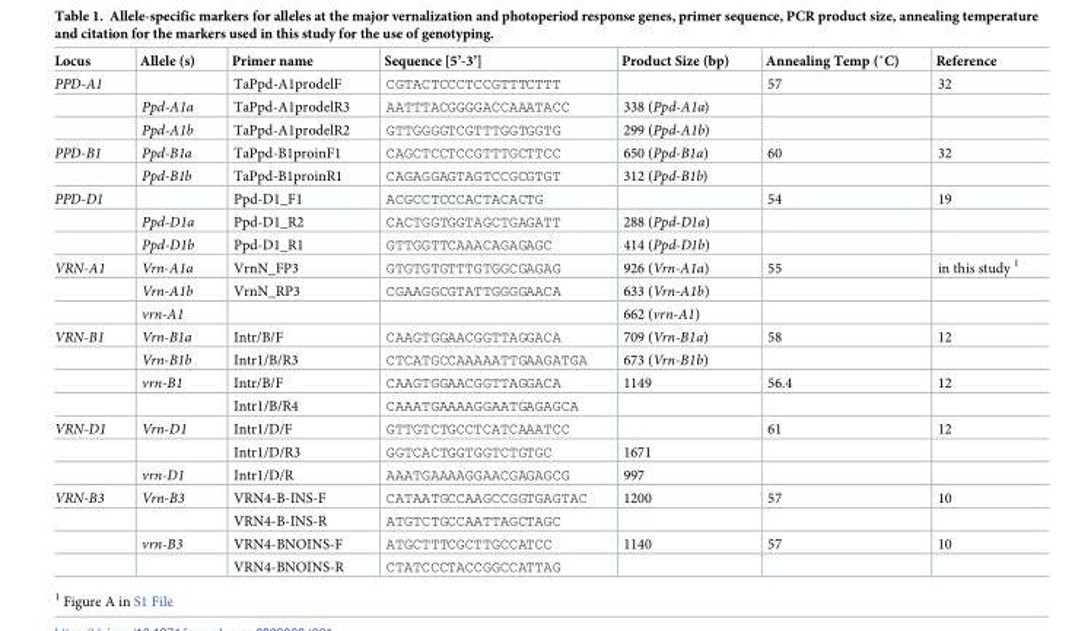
<table><thead><tr><td>Locus</td><td>Allele (s)</td><td>Primer name</td><td>Sequence [5’-3’]</td><td>Product Size (bp)</td><td>Annealing Temp (˚C)</td><td>Reference</td></tr></thead><tbody><tr><td rowspan="3">PPD-A1</td><td></td><td>TaPpd-A1prodelF</td><td>CGTACTCCCTCCGTTTCTTT</td><td></td><td>57</td><td>32</td></tr><tr><td>Ppd-A1a</td><td>TaPpd-A1prodelR3</td><td>AATTTACGGGGACCAAATACC</td><td>338 (Ppd-A1a)</td><td></td><td></td></tr><tr><td>Ppd-A1b</td><td>TaPpd-A1prodelR2</td><td>GTTGGGGTCGTTTGGTGGTG</td><td>299 (Ppd-A1b)</td><td></td><td></td></tr><tr><td rowspan="2">PPD-B1</td><td>Ppd-B1a</td><td>TaPpd-B1proinF1</td><td>CAGCTCCTCCGTTTGCTTCC</td><td>650 (Ppd-B1a)</td><td>60</td><td>32</td></tr><tr><td>Ppd-B1b</td><td>TaPpd-B1proinR1</td><td>CAGAGGAGTAGTCCGCGTGT</td><td>312 (Ppd-B1b)</td><td></td><td></td></tr><tr><td rowspan="3">PPD-D1</td><td></td><td>Ppd-D1_F1</td><td>ACGCCTCCCACTACACTG</td><td></td><td>54</td><td>19</td></tr><tr><td>Ppd-D1a</td><td>Ppd-D1_R2</td><td>CACTGGTGGTAGCTGAGATT</td><td>288 (Ppd-D1a)</td><td></td><td></td></tr><tr><td>Ppd-D1b</td><td>Ppd-D1_R1</td><td>GTTGGTTCAAACAGAGAGC</td><td>414 (Ppd-D1b)</td><td></td><td></td></tr><tr><td rowspan="3">VRN-A1</td><td>Vrn-A1a</td><td>VrnN_FP3</td><td>GTGTGTGTTTGTGGCGAGAG</td><td>926 (Vrn-A1a)</td><td>55</td><td>in this study <sup>1</sup></td></tr><tr><td>Vrn-A1b</td><td>VrnN_RP3</td><td>CGAAGGCGTATTGGGGAACA</td><td>633 (Vrn-A1b)</td><td></td><td></td></tr><tr><td>vrn-A1</td><td></td><td></td><td>662 (vrn-A1)</td><td></td><td></td></tr><tr><td rowspan="4">VRN-B1</td><td>Vrn-B1a</td><td>Intr/B/F</td><td>CAAGTGGAACGGTTAGGACA</td><td>709 (Vrn-B1a)</td><td>58</td><td>12</td></tr><tr><td>Vrn-B1b</td><td>Intr1/B/R3</td><td>CTCATGCCAAAAATTGAAGATGA</td><td>673 (Vrn-B1b)</td><td></td><td></td></tr><tr><td>vrn-B1</td><td>Intr/B/F</td><td>CAAGTGGAACGGTTAGGACA</td><td>1149</td><td>56.4</td><td>12</td></tr><tr><td></td><td>Intr1/B/R4</td><td>CAAATGAAAAGGAATGAGAGCA</td><td></td><td></td><td></td></tr><tr><td rowspan="3">VRN-D1</td><td>Vrn-D1</td><td>Intr1/D/F</td><td>GTTGTCTGCCTCATCAAATCC</td><td></td><td>61</td><td>12</td></tr><tr><td></td><td>Intr1/D/R3</td><td>GGTCACTGGTGGTCTGTGC</td><td>1671</td><td></td><td></td></tr><tr><td>vrn-D1</td><td>Intr1/D/R</td><td>AAATGAAAAGGAACGAGAGCG</td><td>997</td><td></td><td></td></tr><tr><td rowspan="4">VRN-B3</td><td>Vrn-B3</td><td>VRN4-B-INS-F</td><td>CATAATGCCAAGCCGGTGAGTAC</td><td>1200</td><td>57</td><td>10</td></tr><tr><td></td><td>VRN4-B-INS-R</td><td>ATGTCTGCCAATTAGCTAGC</td><td></td><td></td><td></td></tr><tr><td>vrn-B3</td><td>VRN4-BNOINS-F</td><td>ATGCTTTCGCTTGCCATCC</td><td>1140</td><td>57</td><td>10</td></tr><tr><td></td><td>VRN4-BNOINS-R</td><td>CTATCCCTACCGGCCATTAG</td><td></td><td></td><td></td></tr></tbody></table>